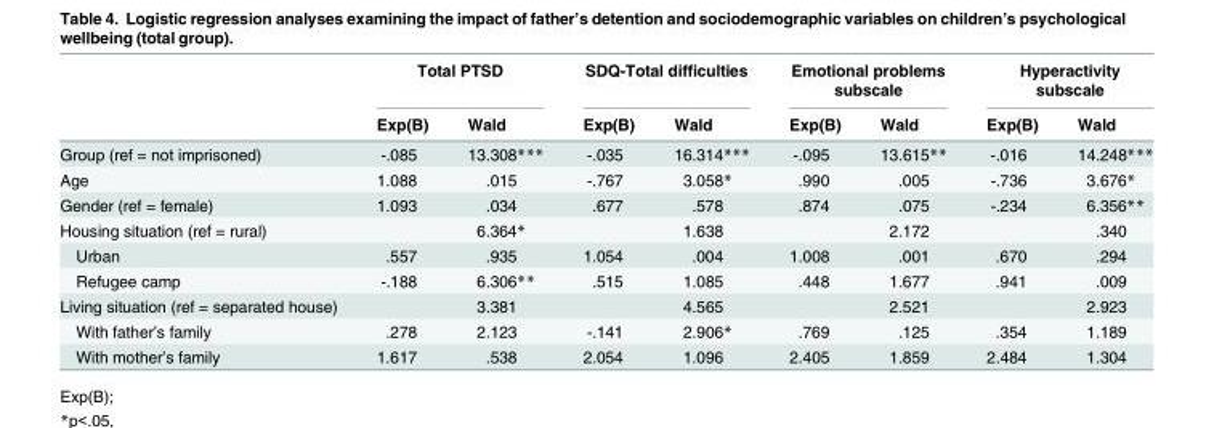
<table><thead><tr><td rowspan="2"></td><td colspan="2">Total PTSD</td><td colspan="2">SDQ-Total difficulties</td><td colspan="2">Emotional problems subscale</td><td colspan="2">Hyperactivity subscale</td></tr><tr><td>Exp(B)</td><td>Wald</td><td>Exp(B)</td><td>Wald</td><td>Exp(B)</td><td>Wald</td><td>Exp(B)</td><td>Wald</td></tr></thead><tbody><tr><td>Group (ref = not imprisoned)</td><td>-.085</td><td>13.308***</td><td>-.035</td><td>16.314***</td><td>-.095</td><td>13.615**</td><td>-.016</td><td>14.248***</td></tr><tr><td>Age</td><td>1.088</td><td>.015</td><td>-.767</td><td>3.058*</td><td>.990</td><td>.005</td><td>-.736</td><td>3.676*</td></tr><tr><td>Gender (ref = female)</td><td>1.093</td><td>.034</td><td>.677</td><td>.578</td><td>.874</td><td>.075</td><td>-.234</td><td>6.356**</td></tr><tr><td>Housing situation (ref = rural)</td><td></td><td>6.364*</td><td></td><td>1.638</td><td></td><td>2.172</td><td></td><td>.340</td></tr><tr><td>Urban</td><td>.557</td><td>.935</td><td>1.054</td><td>.004</td><td>1.008</td><td>.001</td><td>.670</td><td>.294</td></tr><tr><td>Refugee camp</td><td>-.188</td><td>6.306**</td><td>.515</td><td>1.085</td><td>.448</td><td>1.677</td><td>.941</td><td>.009</td></tr><tr><td>Living situation (ref = separated house)</td><td></td><td>3.381</td><td></td><td>4.565</td><td></td><td>2.521</td><td></td><td>2.923</td></tr><tr><td>With father’s family</td><td>.278</td><td>2.123</td><td>-.141</td><td>2.906*</td><td>.769</td><td>.125</td><td>.354</td><td>1.189</td></tr><tr><td>With mother’s family</td><td>1.617</td><td>.538</td><td>2.054</td><td>1.096</td><td>2.405</td><td>1.859</td><td>2.484</td><td>1.304</td></tr></tbody></table>